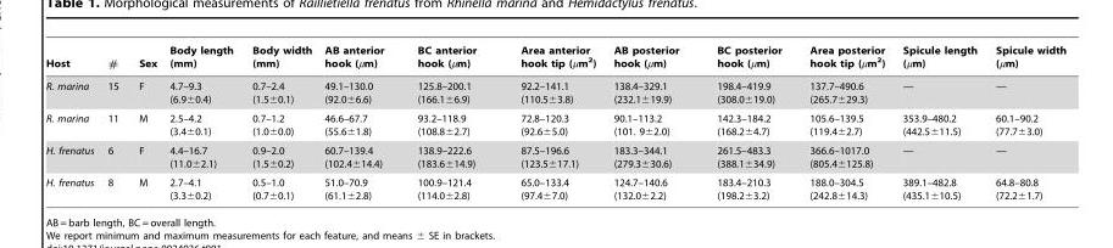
<table><thead><tr><td>Host</td><td>#</td><td>Sex</td><td>Body length (mm)</td><td>Body width (mm)</td><td>AB anterior hook (µm)</td><td>BC anterior hook (µm)</td><td>Area anterior hook tip (µm<sup>2</sup>)</td><td>AB posterior hook (µm)</td><td>BC posterior hook (µm)</td><td>Area posterior hook tip (µm<sup>2</sup>)</td><td>Spicule length (µm)</td><td>Spicule width (µm)</td></tr></thead><tbody><tr><td>R. marina</td><td>15</td><td>F</td><td>4.7–9.3 (6.9±0.4)</td><td>0.7–2.4 (1.5±0.1)</td><td>49.1–130.0 (92.0±6.6)</td><td>125.8–200.1 (166.1±6.9)</td><td>92.2–141.1 (110.5±3.8)</td><td>138.4–329.1 (232.1±19.9)</td><td>198.4–419.9 (308.0±19.0)</td><td>137.7–490.6 (265.7±29.3)</td><td>—</td><td>—</td></tr><tr><td>R. marina</td><td>11</td><td>M</td><td>2.5–4.2 (3.4±0.1)</td><td>0.7–1.2 (1.0±0.0)</td><td>46.6–67.7 (55.6±1.8)</td><td>93.2–118.9 (108.8±2.7)</td><td>72.8–120.3 (92.6±5.0)</td><td>90.1–113.2 (101. 9±2.0)</td><td>142.3–184.2 (168.2±4.7)</td><td>105.6–139.5 (119.4±2.7)</td><td>353.9–480.2 (442.5±11.5)</td><td>60.1–90.2 (77.7±3.0)</td></tr><tr><td>H. frenatus</td><td>6</td><td>F</td><td>4.4–16.7 (11.0±2.1)</td><td>0.9–2.0 (1.5±0.2)</td><td>60.7–139.4 (102.4±14.4)</td><td>138.9–222.6 (183.6±14.9)</td><td>87.5–196.6 (123.5±17.1)</td><td>183.3–344.1 (279.3±30.6)</td><td>261.5–483.3 (388.1±34.9)</td><td>366.6–1017.0 (805.4±125.8)</td><td>—</td><td>—</td></tr><tr><td>H. frenatus</td><td>8</td><td>M</td><td>2.7–4.1 (3.3±0.2)</td><td>0.5–1.0 (0.7±0.1)</td><td>51.0–70.9 (61.1±2.8)</td><td>100.9–121.4 (114.0±2.8)</td><td>65.0–133.4 (97.4±7.0)</td><td>124.7–140.6 (132.0±2.2)</td><td>183.4–210.3 (198.2±3.2)</td><td>188.0–304.5 (242.8±14.3)</td><td>389.1–482.8 (435.1±10.5)</td><td>64.8–80.8 (72.2±1.7)</td></tr></tbody></table>